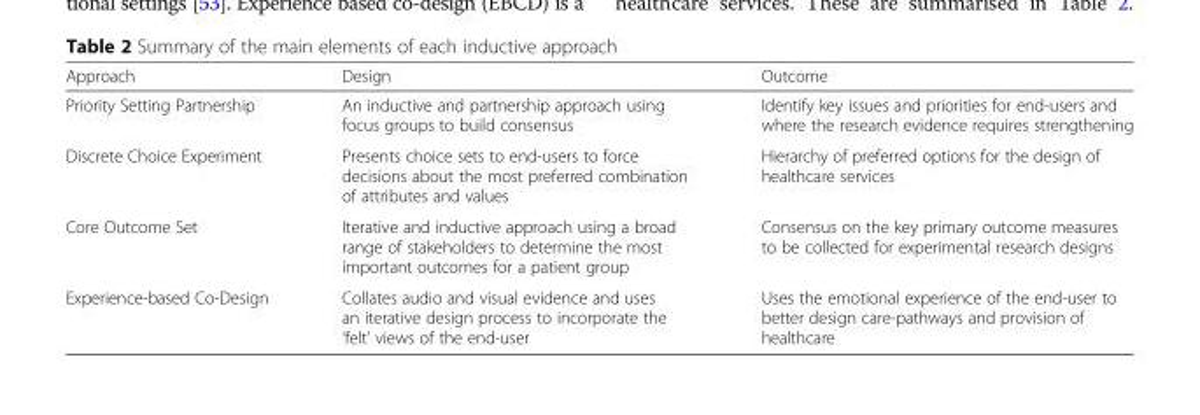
<table><thead><tr><td>Approach</td><td>Design</td><td>Outcome</td></tr></thead><tbody><tr><td>Priority Setting Partnership</td><td>An inductive and partnership approach using focus groups to build consensus</td><td>Identify key issues and priorities for end-users and where the research evidence requires strengthening</td></tr><tr><td>Discrete Choice Experiment</td><td>Presents choice sets to end-users to force decisions about the most preferred combination of attributes and values</td><td>Hierarchy of preferred options for the design of healthcare services</td></tr><tr><td>Core Outcome Set</td><td>Iterative and inductive approach using a broad range of stakeholders to determine the most important outcomes for a patient group</td><td>Consensus on the key primary outcome measures to be collected for experimental research designs</td></tr><tr><td>Experience-based Co-Design</td><td>Collates audio and visual evidence and uses an iterative design process to incorporate the ‘felt’ views of the end-user</td><td>Uses the emotional experience of the end-user to better design care-pathways and provision of healthcare</td></tr></tbody></table>